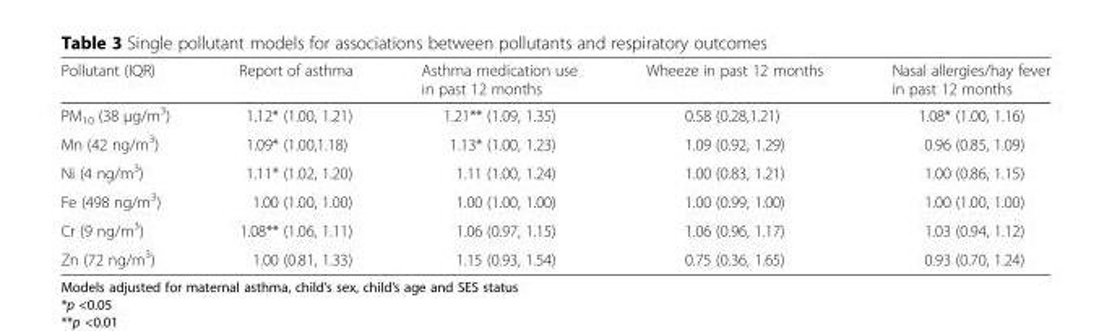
<table><thead><tr><td>Pollutant (IQR)</td><td>Report of asthma</td><td>Asthma medication use in past 12 months</td><td>Wheeze in past 12 months</td><td>Nasal allergies/hay fever in past 12 months</td></tr></thead><tbody><tr><td>PM<sub>10</sub> (38 μg/m<sup>3</sup>)</td><td>1.12* (1.00, 1.21)</td><td>1.21** (1.09, 1.35)</td><td>0.58 (0.28,1.21)</td><td>1.08* (1.00, 1.16)</td></tr><tr><td>Mn (42 ng/m<sup>3</sup>)</td><td>1.09* (1.00,1.18)</td><td>1.13* (1.00, 1.23)</td><td>1.09 (0.92, 1.29)</td><td>0.96 (0.85, 1.09)</td></tr><tr><td>Ni (4 ng/m<sup>3</sup>)</td><td>1.11* (1.02, 1.20)</td><td>1.11 (1.00, 1.24)</td><td>1.00 (0.83, 1.21)</td><td>1.00 (0.86, 1.15)</td></tr><tr><td>Fe (498 ng/m<sup>3</sup>)</td><td>1.00 (1.00, 1.00)</td><td>1.00 (1.00, 1.00)</td><td>1.00 (0.99, 1.00)</td><td>1.00 (1.00, 1.00)</td></tr><tr><td>Cr (9 ng/m<sup>3</sup>)</td><td>1.08** (1.06, 1.11)</td><td>1.06 (0.97, 1.15)</td><td>1.06 (0.96, 1.17)</td><td>1.03 (0.94, 1.12)</td></tr><tr><td>Zn (72 ng/m<sup>3</sup>)</td><td>1.00 (0.81, 1.33)</td><td>1.15 (0.93, 1.54)</td><td>0.75 (0.36, 1.65)</td><td>0.93 (0.70, 1.24)</td></tr></tbody></table>